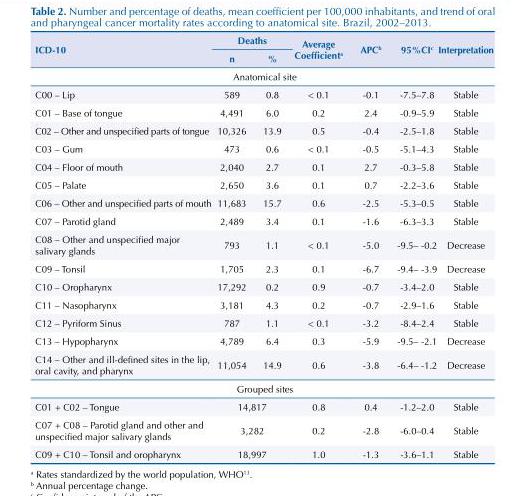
<table><thead><tr><td rowspan="2">ICD-10</td><td colspan="2">Deaths</td><td rowspan="2">Average Coefficient<sup>a</sup></td><td rowspan="2">APC<sup>b</sup></td><td rowspan="2">95%CI<sup>c</sup></td><td rowspan="2">Interpretation</td></tr><tr><td>n</td><td>%</td></tr></thead><tbody><tr><td colspan="7">Anatomical site</td></tr><tr><td>C00 – Lip</td><td>589</td><td>0.8</td><td>&lt; 0.1</td><td>-0.1</td><td>-7.5–7.8</td><td>Stable</td></tr><tr><td>C01 – Base of tongue</td><td>4,491</td><td>6.0</td><td>0.2</td><td>2.4</td><td>-0.9–5.9</td><td>Stable</td></tr><tr><td>C02 – Other and unspecified parts of tongue</td><td>10,326</td><td>13.9</td><td>0.5</td><td>-0.4</td><td>-2.5–1.8</td><td>Stable</td></tr><tr><td>C03 – Gum</td><td>473</td><td>0.6</td><td>&lt; 0.1</td><td>-0.5</td><td>-5.1–4.3</td><td>Stable</td></tr><tr><td>C04 – Floor of mouth</td><td>2,040</td><td>2.7</td><td>0.1</td><td>2.7</td><td>-0.3–5.8</td><td>Stable</td></tr><tr><td>C05 – Palate</td><td>2,650</td><td>3.6</td><td>0.1</td><td>0.7</td><td>-2.2–3.6</td><td>Stable</td></tr><tr><td>C06 – Other and unspecified parts of mouth</td><td>11,683</td><td>15.7</td><td>0.6</td><td>-2.5</td><td>-5.3–0.5</td><td>Stable</td></tr><tr><td>C07 – Parotid gland</td><td>2,489</td><td>3.4</td><td>0.1</td><td>-1.6</td><td>-6.3–3.3</td><td>Stable</td></tr><tr><td>C08 – Other and unspecified major salivary glands</td><td>793</td><td>1.1</td><td>&lt; 0.1</td><td>-5.0</td><td>-9.5– -0.2</td><td>Decrease</td></tr><tr><td>C09 – Tonsil</td><td>1,705</td><td>2.3</td><td>0.1</td><td>-6.7</td><td>-9.4– -3.9</td><td>Decrease</td></tr><tr><td>C10 – Oropharynx</td><td>17,292</td><td>0.2</td><td>0.9</td><td>-0.7</td><td>-3.4–2.0</td><td>Stable</td></tr><tr><td>C11 – Nasopharynx</td><td>3,181</td><td>4.3</td><td>0.2</td><td>-0.7</td><td>-2.9–1.6</td><td>Stable</td></tr><tr><td>C12 – Pyriform Sinus</td><td>787</td><td>1.1</td><td>&lt; 0.1</td><td>-3.2</td><td>-8.4–2.4</td><td>Stable</td></tr><tr><td>C13 – Hypopharynx</td><td>4,789</td><td>6.4</td><td>0.3</td><td>-5.9</td><td>-9.5– -2.1</td><td>Decrease</td></tr><tr><td>C14 – Other and ill-defined sites in the lip, oral cavity, and pharynx</td><td>11,054</td><td>14.9</td><td>0.6</td><td>-3.8</td><td>-6.4– -1.2</td><td>Decrease</td></tr><tr><td colspan="7">Grouped sites</td></tr><tr><td>C01 + C02 – Tongue</td><td colspan="2">14,817</td><td>0.8</td><td>0.4</td><td>-1.2–2.0</td><td>Stable</td></tr><tr><td>C07 + C08 – Parotid gland and other and unspecified major salivary glands</td><td colspan="2">3,282</td><td>0.2</td><td>-2.8</td><td>-6.0–0.4</td><td>Stable</td></tr><tr><td>C09 + C10 – Tonsil and oropharynx</td><td colspan="2">18,997</td><td>1.0</td><td>-1.3</td><td>-3.6–1.1</td><td>Stable</td></tr></tbody></table>